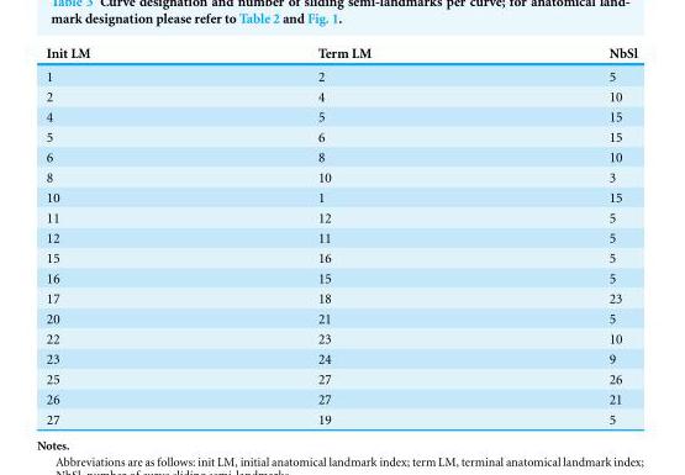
<table><thead><tr><td>Init LM</td><td>Term LM</td><td>NbSl</td></tr></thead><tbody><tr><td>1</td><td>2</td><td>5</td></tr><tr><td>2</td><td>4</td><td>10</td></tr><tr><td>4</td><td>5</td><td>15</td></tr><tr><td>5</td><td>6</td><td>15</td></tr><tr><td>6</td><td>8</td><td>10</td></tr><tr><td>8</td><td>10</td><td>3</td></tr><tr><td>10</td><td>1</td><td>15</td></tr><tr><td>11</td><td>12</td><td>5</td></tr><tr><td>12</td><td>11</td><td>5</td></tr><tr><td>15</td><td>16</td><td>5</td></tr><tr><td>16</td><td>15</td><td>5</td></tr><tr><td>17</td><td>18</td><td>23</td></tr><tr><td>20</td><td>21</td><td>5</td></tr><tr><td>22</td><td>23</td><td>10</td></tr><tr><td>23</td><td>24</td><td>9</td></tr><tr><td>25</td><td>27</td><td>26</td></tr><tr><td>26</td><td>27</td><td>21</td></tr><tr><td>27</td><td>19</td><td>5</td></tr></tbody></table>